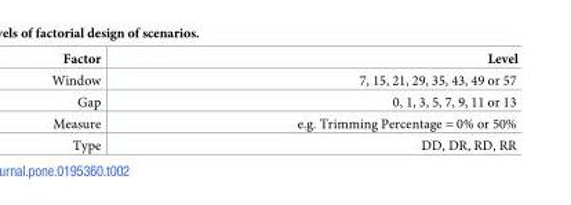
<table><thead><tr><td>Factor</td><td>Level</td></tr></thead><tbody><tr><td>Window</td><td>7, 15, 21, 29, 35, 43, 49 or 57</td></tr><tr><td>Gap</td><td>0, 1, 3, 5, 7, 9, 11 or 13</td></tr><tr><td>Measure</td><td>e.g. Trimming Percentage = 0% or 50%</td></tr><tr><td>Type</td><td>DD, DR, RD, RR</td></tr></tbody></table>